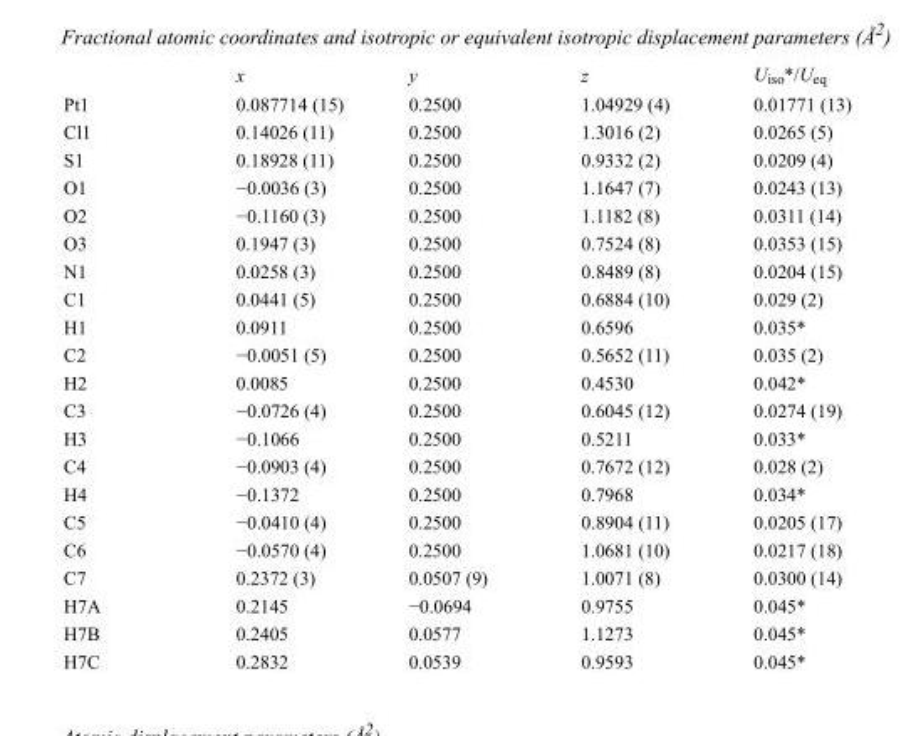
<table><thead><tr><td></td><td>x</td><td>y</td><td>z</td><td>U<sub>iso</sub>*/U<sub>eq</sub></td></tr></thead><tbody><tr><td>Pt1</td><td>0.087714 (15)</td><td>0.2500</td><td>1.04929 (4)</td><td>0.01771 (13)</td></tr><tr><td>Cl1</td><td>0.14026 (11)</td><td>0.2500</td><td>1.3016 (2)</td><td>0.0265 (5)</td></tr><tr><td>S1</td><td>0.18928 (11)</td><td>0.2500</td><td>0.9332 (2)</td><td>0.0209 (4)</td></tr><tr><td>O1</td><td>−0.0036 (3)</td><td>0.2500</td><td>1.1647 (7)</td><td>0.0243 (13)</td></tr><tr><td>O2</td><td>−0.1160 (3)</td><td>0.2500</td><td>1.1182 (8)</td><td>0.0311 (14)</td></tr><tr><td>O3</td><td>0.1947 (3)</td><td>0.2500</td><td>0.7524 (8)</td><td>0.0353 (15)</td></tr><tr><td>N1</td><td>0.0258 (3)</td><td>0.2500</td><td>0.8489 (8)</td><td>0.0204 (15)</td></tr><tr><td>C1</td><td>0.0441 (5)</td><td>0.2500</td><td>0.6884 (10)</td><td>0.029 (2)</td></tr><tr><td>H1</td><td>0.0911</td><td>0.2500</td><td>0.6596</td><td>0.035*</td></tr><tr><td>C2</td><td>−0.0051 (5)</td><td>0.2500</td><td>0.5652 (11)</td><td>0.035 (2)</td></tr><tr><td>H2</td><td>0.0085</td><td>0.2500</td><td>0.4530</td><td>0.042*</td></tr><tr><td>C3</td><td>−0.0726 (4)</td><td>0.2500</td><td>0.6045 (12)</td><td>0.0274 (19)</td></tr><tr><td>H3</td><td>−0.1066</td><td>0.2500</td><td>0.5211</td><td>0.033*</td></tr><tr><td>C4</td><td>−0.0903 (4)</td><td>0.2500</td><td>0.7672 (12)</td><td>0.028 (2)</td></tr><tr><td>H4</td><td>−0.1372</td><td>0.2500</td><td>0.7968</td><td>0.034*</td></tr><tr><td>C5</td><td>−0.0410 (4)</td><td>0.2500</td><td>0.8904 (11)</td><td>0.0205 (17)</td></tr><tr><td>C6</td><td>−0.0570 (4)</td><td>0.2500</td><td>1.0681 (10)</td><td>0.0217 (18)</td></tr><tr><td>C7</td><td>0.2372 (3)</td><td>0.0507 (9)</td><td>1.0071 (8)</td><td>0.0300 (14)</td></tr><tr><td>H7A</td><td>0.2145</td><td>−0.0694</td><td>0.9755</td><td>0.045*</td></tr><tr><td>H7B</td><td>0.2405</td><td>0.0577</td><td>1.1273</td><td>0.045*</td></tr><tr><td>H7C</td><td>0.2832</td><td>0.0539</td><td>0.9593</td><td>0.045*</td></tr></tbody></table>